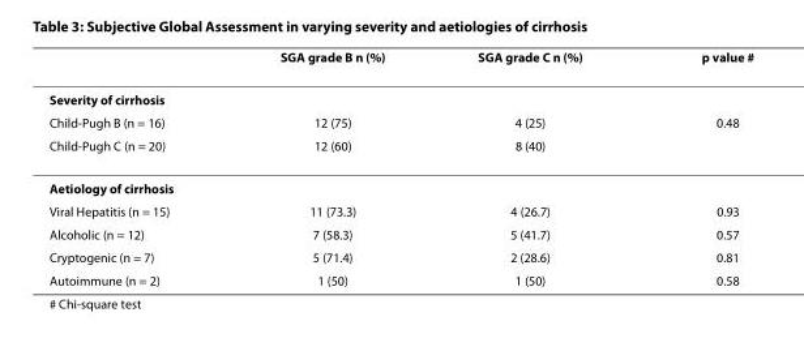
<table><thead><tr><td></td><td>SGA grade B n (%)</td><td>SGA grade C n (%)</td><td>p value #</td></tr></thead><tbody><tr><td colspan="4">Severity of cirrhosis</td></tr><tr><td>Child-Pugh B (n = 16)</td><td>12 (75)</td><td>4 (25)</td><td>0.48</td></tr><tr><td>Child-Pugh C (n = 20)</td><td>12 (60)</td><td>8 (40)</td><td></td></tr><tr><td colspan="4">Aetiology of cirrhosis</td></tr><tr><td>Viral Hepatitis (n = 15)</td><td>11 (73.3)</td><td>4 (26.7)</td><td>0.93</td></tr><tr><td>Alcoholic (n = 12)</td><td>7 (58.3)</td><td>5 (41.7)</td><td>0.57</td></tr><tr><td>Cryptogenic (n = 7)</td><td>5 (71.4)</td><td>2 (28.6)</td><td>0.81</td></tr><tr><td>Autoimmune (n = 2)</td><td>1 (50)</td><td>1 (50)</td><td>0.58</td></tr></tbody></table>